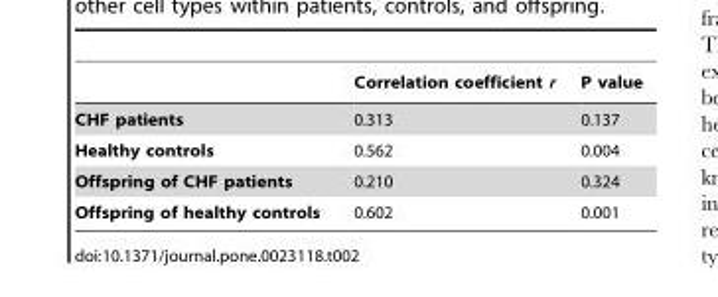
<table><thead><tr><td></td><td>Correlation coefficient r</td><td>P value</td></tr></thead><tbody><tr><td>CHF patients</td><td>0.313</td><td>0.137</td></tr><tr><td>Healthy controls</td><td>0.562</td><td>0.004</td></tr><tr><td>Offspring of CHF patients</td><td>0.210</td><td>0.324</td></tr><tr><td>Offspring of healthy controls</td><td>0.602</td><td>0.001</td></tr></tbody></table>